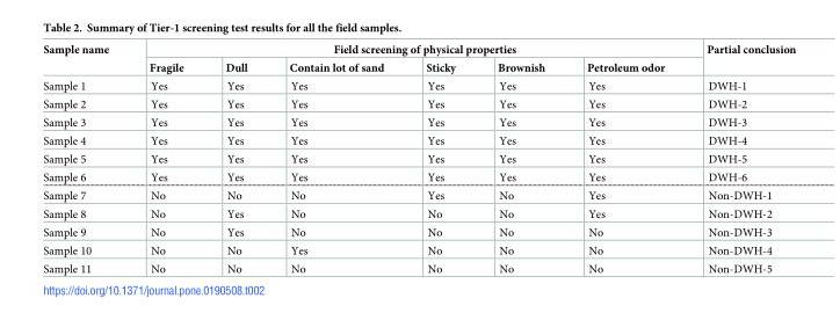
<table><thead><tr><td rowspan="2">Sample name</td><td colspan="6">Field screening of physical properties</td><td rowspan="2">Partial conclusion</td></tr><tr><td>Fragile</td><td>Dull</td><td>Contain lot of sand</td><td>Sticky</td><td>Brownish</td><td>Petroleum odor</td></tr></thead><tbody><tr><td>Sample 1</td><td>Yes</td><td>Yes</td><td>Yes</td><td>Yes</td><td>Yes</td><td>Yes</td><td>DWH-1</td></tr><tr><td>Sample 2</td><td>Yes</td><td>Yes</td><td>Yes</td><td>Yes</td><td>Yes</td><td>Yes</td><td>DWH-2</td></tr><tr><td>Sample 3</td><td>Yes</td><td>Yes</td><td>Yes</td><td>Yes</td><td>Yes</td><td>Yes</td><td>DWH-3</td></tr><tr><td>Sample 4</td><td>Yes</td><td>Yes</td><td>Yes</td><td>Yes</td><td>Yes</td><td>Yes</td><td>DWH-4</td></tr><tr><td>Sample 5</td><td>Yes</td><td>Yes</td><td>Yes</td><td>Yes</td><td>Yes</td><td>Yes</td><td>DWH-5</td></tr><tr><td>Sample 6</td><td>Yes</td><td>Yes</td><td>Yes</td><td>Yes</td><td>Yes</td><td>Yes</td><td>DWH-6</td></tr><tr><td>Sample 7</td><td>No</td><td>No</td><td>No</td><td>Yes</td><td>No</td><td>Yes</td><td>Non-DWH-1</td></tr><tr><td>Sample 8</td><td>No</td><td>Yes</td><td>No</td><td>No</td><td>No</td><td>Yes</td><td>Non-DWH-2</td></tr><tr><td>Sample 9</td><td>No</td><td>Yes</td><td>No</td><td>No</td><td>No</td><td>No</td><td>Non-DWH-3</td></tr><tr><td>Sample 10</td><td>No</td><td>No</td><td>Yes</td><td>No</td><td>No</td><td>No</td><td>Non-DWH-4</td></tr><tr><td>Sample 11</td><td>No</td><td>No</td><td>No</td><td>No</td><td>No</td><td>No</td><td>Non-DWH-5</td></tr></tbody></table>